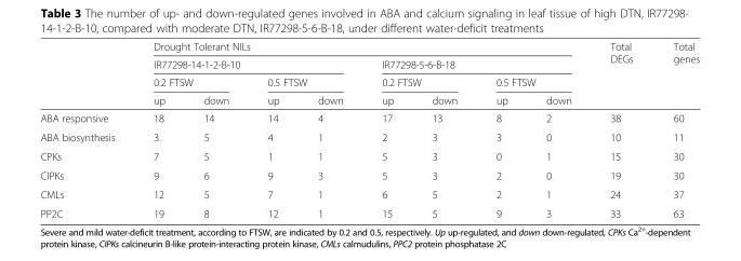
<table><thead><tr><td rowspan="4"></td><td colspan="8">Drought Tolerant NILs</td><td rowspan="4">Total DEGs</td><td rowspan="4">Total genes</td></tr><tr><td colspan="4">IR77298-14-1-2-B-10</td><td colspan="4">IR77298-5-6-B-18</td></tr><tr><td colspan="2">0.2 FTSW</td><td colspan="2">0.5 FTSW</td><td colspan="2">0.2 FTSW</td><td colspan="2">0.5 FTSW</td></tr><tr><td>up</td><td>down</td><td>up</td><td>down</td><td>up</td><td>down</td><td>up</td><td>down</td></tr></thead><tbody><tr><td>ABA responsive</td><td>18</td><td>14</td><td>14</td><td>4</td><td>17</td><td>13</td><td>8</td><td>2</td><td>38</td><td>60</td></tr><tr><td>ABA biosynthesis</td><td>3</td><td>5</td><td>4</td><td>1</td><td>2</td><td>3</td><td>3</td><td>0</td><td>10</td><td>11</td></tr><tr><td>CPKs</td><td>7</td><td>5</td><td>1</td><td>1</td><td>5</td><td>3</td><td>0</td><td>1</td><td>15</td><td>30</td></tr><tr><td>CIPKs</td><td>9</td><td>6</td><td>9</td><td>3</td><td>5</td><td>3</td><td>2</td><td>0</td><td>19</td><td>30</td></tr><tr><td>CMLs</td><td>12</td><td>5</td><td>7</td><td>1</td><td>6</td><td>5</td><td>2</td><td>1</td><td>24</td><td>37</td></tr><tr><td>PP2C</td><td>19</td><td>8</td><td>12</td><td>1</td><td>15</td><td>5</td><td>9</td><td>3</td><td>33</td><td>63</td></tr></tbody></table>